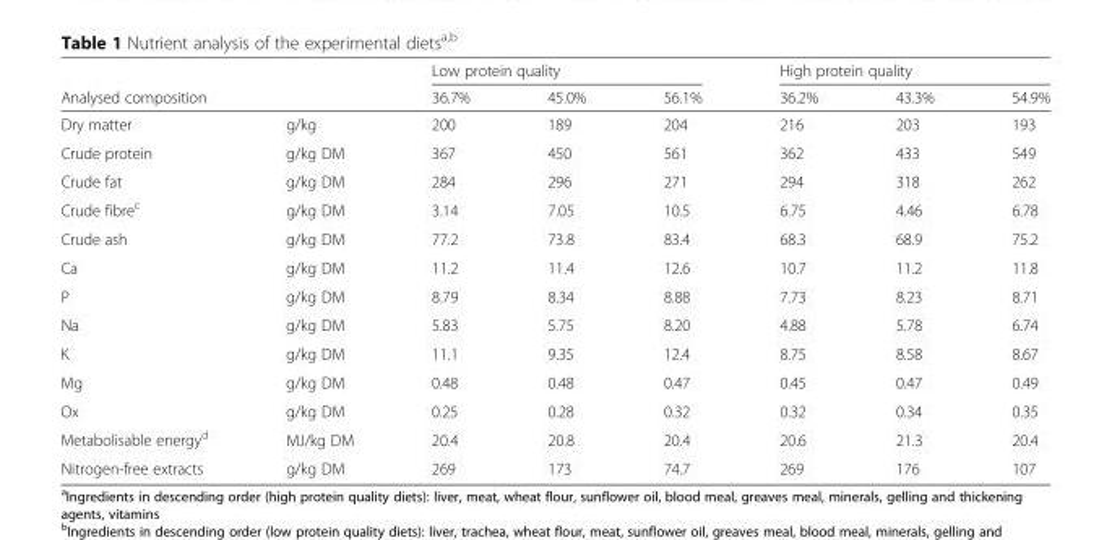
<table><thead><tr><td rowspan="2">Analysed composition</td><td rowspan="2"></td><td colspan="3">Low protein quality</td><td colspan="3">High protein quality</td></tr><tr><td>36.7%</td><td>45.0%</td><td>56.1%</td><td>36.2%</td><td>43.3%</td><td>54.9%</td></tr></thead><tbody><tr><td>Dry matter</td><td>g/kg</td><td>200</td><td>189</td><td>204</td><td>216</td><td>203</td><td>193</td></tr><tr><td>Crude protein</td><td>g/kg DM</td><td>367</td><td>450</td><td>561</td><td>362</td><td>433</td><td>549</td></tr><tr><td>Crude fat</td><td>g/kg DM</td><td>284</td><td>296</td><td>271</td><td>294</td><td>318</td><td>262</td></tr><tr><td>Crude fibre<sup>c</sup></td><td>g/kg DM</td><td>3.14</td><td>7.05</td><td>10.5</td><td>6.75</td><td>4.46</td><td>6.78</td></tr><tr><td>Crude ash</td><td>g/kg DM</td><td>77.2</td><td>73.8</td><td>83.4</td><td>68.3</td><td>68.9</td><td>75.2</td></tr><tr><td>Ca</td><td>g/kg DM</td><td>11.2</td><td>11.4</td><td>12.6</td><td>10.7</td><td>11.2</td><td>11.8</td></tr><tr><td>P</td><td>g/kg DM</td><td>8.79</td><td>8.34</td><td>8.88</td><td>7.73</td><td>8.23</td><td>8.71</td></tr><tr><td>Na</td><td>g/kg DM</td><td>5.83</td><td>5.75</td><td>8.20</td><td>4.88</td><td>5.78</td><td>6.74</td></tr><tr><td>K</td><td>g/kg DM</td><td>11.1</td><td>9.35</td><td>12.4</td><td>8.75</td><td>8.58</td><td>8.67</td></tr><tr><td>Mg</td><td>g/kg DM</td><td>0.48</td><td>0.48</td><td>0.47</td><td>0.45</td><td>0.47</td><td>0.49</td></tr><tr><td>Ox</td><td>g/kg DM</td><td>0.25</td><td>0.28</td><td>0.32</td><td>0.32</td><td>0.34</td><td>0.35</td></tr><tr><td>Metabolisable energy<sup>d</sup></td><td>MJ/kg DM</td><td>20.4</td><td>20.8</td><td>20.4</td><td>20.6</td><td>21.3</td><td>20.4</td></tr><tr><td>Nitrogen-free extracts</td><td>g/kg DM</td><td>269</td><td>173</td><td>74.7</td><td>269</td><td>176</td><td>107</td></tr></tbody></table>